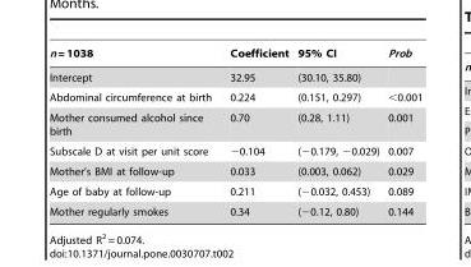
<table><thead><tr><td>n = 1038</td><td>Coefficient</td><td>95% CI</td><td>Prob</td></tr></thead><tbody><tr><td>Intercept</td><td>32.95</td><td>(30.10, 35.80)</td><td></td></tr><tr><td>Abdominal circumference at birth</td><td>0.224</td><td>(0.151, 0.297)</td><td>&lt;0.001</td></tr><tr><td>Mother consumed alcohol since birth</td><td>0.70</td><td>(0.28, 1.11)</td><td>0.001</td></tr><tr><td>Subscale D at visit per unit score</td><td>−0.104</td><td>(−0.179, −0.029)</td><td>0.007</td></tr><tr><td>Mother’s BMI at follow-up</td><td>0.033</td><td>(0.003, 0.062)</td><td>0.029</td></tr><tr><td>Age of baby at follow-up</td><td>0.211</td><td>(−0.032, 0.453)</td><td>0.089</td></tr><tr><td>Mother regularly smokes</td><td>0.34</td><td>(−0.12, 0.80)</td><td>0.144</td></tr></tbody></table>